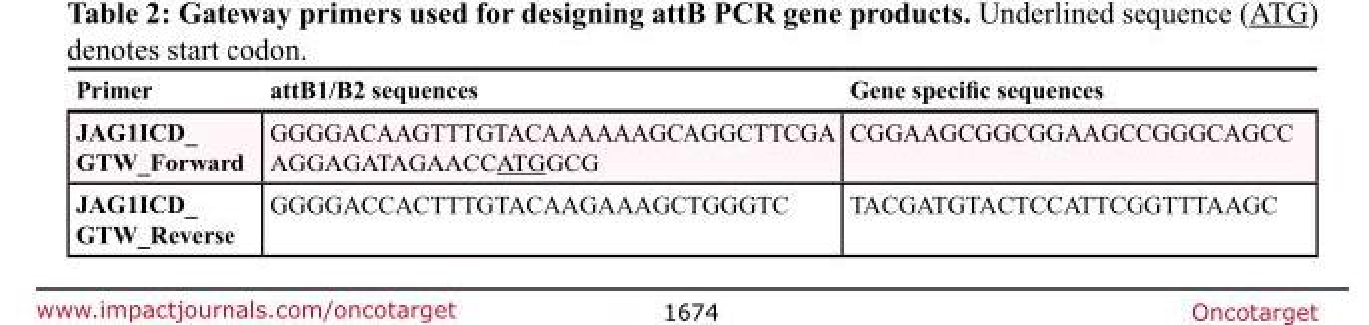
<table><thead><tr><td>Primer</td><td>attB1/B2 sequences</td><td>Gene specific sequences</td></tr></thead><tbody><tr><td>JAG1ICD_ GTW_Forward</td><td>GGGGACAAGTTTGTACAAAAAAGCAGGCTTCGA AGGAGATAGAACCATGGCG</td><td>CGGAAGCGGCGGAAGCCGGGCAGCC</td></tr><tr><td>JAG1ICD_ GTW_Reverse</td><td>GGGGACCACTTTGTACAAGAAAGCTGGGTC</td><td>TACGATGTACTCCATTCGGTTTAAGC</td></tr></tbody></table>